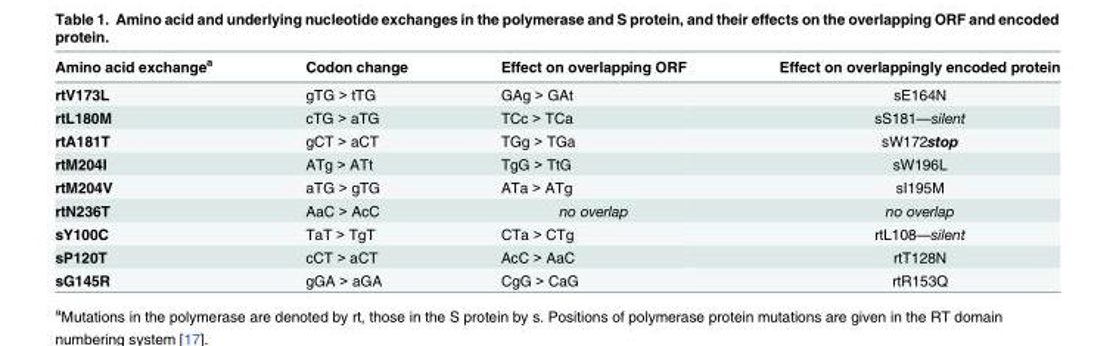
<table><thead><tr><td>Amino acid exchange<sup>a</sup></td><td>Codon change</td><td>Effect on overlapping ORF</td><td>Effect on overlappingly encoded protein</td></tr></thead><tbody><tr><td>rtV173L</td><td>gTG &gt; tTG</td><td>GAg &gt; GAt</td><td>sE164N</td></tr><tr><td>rtL180M</td><td>cTG &gt; aTG</td><td>TCc &gt; TCa</td><td>sS181—silent</td></tr><tr><td>rtA181T</td><td>gCT &gt; aCT</td><td>TGg &gt; TGa</td><td>sW172stop</td></tr><tr><td>rtM204I</td><td>ATg &gt; ATt</td><td>TgG &gt; TtG</td><td>sW196L</td></tr><tr><td>rtM204V</td><td>aTG &gt; gTG</td><td>ATa &gt; ATg</td><td>sI195M</td></tr><tr><td>rtN236T</td><td>AaC &gt; AcC</td><td>no overlap</td><td>no overlap</td></tr><tr><td>sY100C</td><td>TaT &gt; TgT</td><td>CTa &gt; CTg</td><td>rtL108—silent</td></tr><tr><td>sP120T</td><td>cCT &gt; aCT</td><td>AcC &gt; AaC</td><td>rtT128N</td></tr><tr><td>sG145R</td><td>gGA &gt; aGA</td><td>CgG &gt; CaG</td><td>rtR153Q</td></tr></tbody></table>